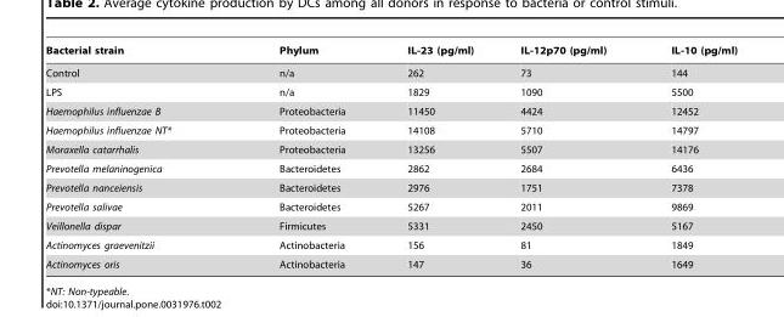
<table><thead><tr><td>Bacterial strain</td><td>Phylum</td><td>IL-23 (pg/ml)</td><td>IL-12p70 (pg/ml)</td><td>IL-10 (pg/ml)</td></tr></thead><tbody><tr><td>Control</td><td>n/a</td><td>262</td><td>73</td><td>144</td></tr><tr><td>LPS</td><td>n/a</td><td>1829</td><td>1090</td><td>5500</td></tr><tr><td>Haemophilus influenzae B</td><td>Proteobacteria</td><td>11450</td><td>4424</td><td>12452</td></tr><tr><td>Haemophilus influenzae NT*</td><td>Proteobacteria</td><td>14108</td><td>5710</td><td>14797</td></tr><tr><td>Moraxella catarrhalis</td><td>Proteobacteria</td><td>13256</td><td>5507</td><td>14176</td></tr><tr><td>Prevotella melaninogenica</td><td>Bacteroidetes</td><td>2862</td><td>2684</td><td>6436</td></tr><tr><td>Prevotella nanceiensis</td><td>Bacteroidetes</td><td>2976</td><td>1751</td><td>7378</td></tr><tr><td>Prevotella salivae</td><td>Bacteroidetes</td><td>5267</td><td>2011</td><td>9869</td></tr><tr><td>Veillonella dispar</td><td>Firmicutes</td><td>5331</td><td>2450</td><td>5167</td></tr><tr><td>Actinomyces graevenitzii</td><td>Actinobacteria</td><td>156</td><td>81</td><td>1849</td></tr><tr><td>Actinomyces oris</td><td>Actinobacteria</td><td>147</td><td>36</td><td>1649</td></tr></tbody></table>